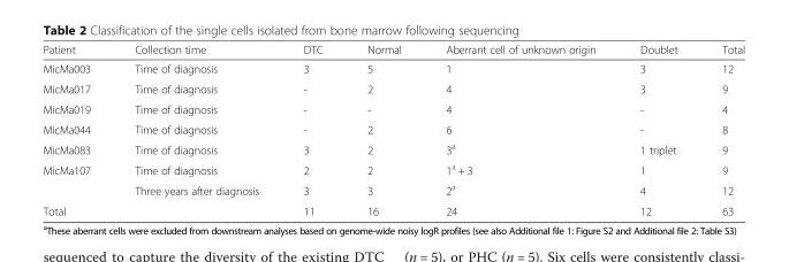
<table><thead><tr><td>Patient</td><td>Collection time</td><td>DTC</td><td>Normal</td><td>Aberrant cell of unknown origin</td><td>Doublet</td><td>Total</td></tr></thead><tbody><tr><td>MicMa003</td><td>Time of diagnosis</td><td>3</td><td>5</td><td>1</td><td>3</td><td>12</td></tr><tr><td>MicMa017</td><td>Time of diagnosis</td><td>-</td><td>2</td><td>4</td><td>3</td><td>9</td></tr><tr><td>MicMa019</td><td>Time of diagnosis</td><td>-</td><td>-</td><td>4</td><td>-</td><td>4</td></tr><tr><td>MicMa044</td><td>Time of diagnosis</td><td>-</td><td>2</td><td>6</td><td>-</td><td>8</td></tr><tr><td>MicMa083</td><td>Time of diagnosis</td><td>3</td><td>2</td><td>3<sup>a</sup></td><td>1 triplet</td><td>9</td></tr><tr><td rowspan="2">MicMa107</td><td>Time of diagnosis</td><td>2</td><td>2</td><td>1<sup>a</sup> + 3</td><td>1</td><td>9</td></tr><tr><td>Three years after diagnosis</td><td>3</td><td>3</td><td>2<sup>a</sup></td><td>4</td><td>12</td></tr><tr><td>Total</td><td></td><td>11</td><td>16</td><td>24</td><td>12</td><td>63</td></tr></tbody></table>